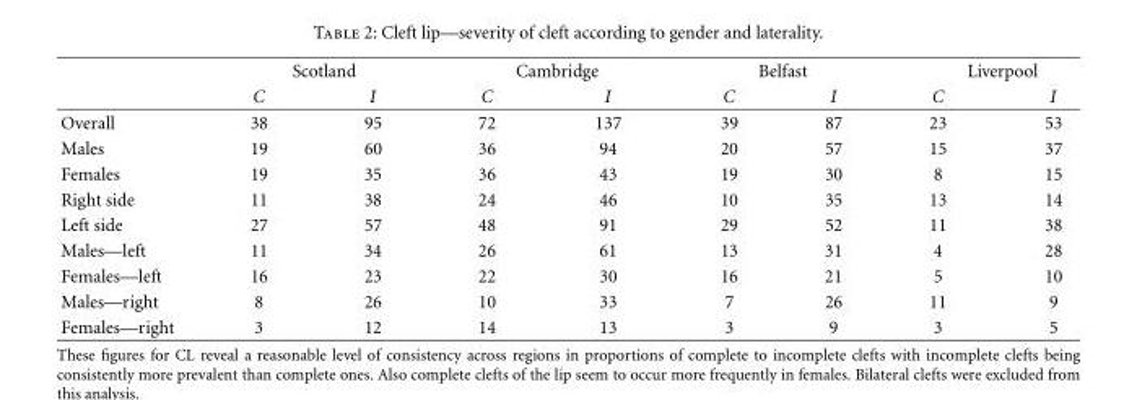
<table><thead><tr><td rowspan="2"></td><td colspan="2">Scotland</td><td colspan="2">Cambridge</td><td colspan="2">Belfast</td><td colspan="2">Liverpool</td></tr><tr><td>C</td><td>I</td><td>C</td><td>I</td><td>C</td><td>I</td><td>C</td><td>I</td></tr></thead><tbody><tr><td>Overall</td><td>38</td><td>95</td><td>72</td><td>137</td><td>39</td><td>87</td><td>23</td><td>53</td></tr><tr><td>Males</td><td>19</td><td>60</td><td>36</td><td>94</td><td>20</td><td>57</td><td>15</td><td>37</td></tr><tr><td>Females</td><td>19</td><td>35</td><td>36</td><td>43</td><td>19</td><td>30</td><td>8</td><td>15</td></tr><tr><td>Right side</td><td>11</td><td>38</td><td>24</td><td>46</td><td>10</td><td>35</td><td>13</td><td>14</td></tr><tr><td>Left side</td><td>27</td><td>57</td><td>48</td><td>91</td><td>29</td><td>52</td><td>11</td><td>38</td></tr><tr><td>Males—left</td><td>11</td><td>34</td><td>26</td><td>61</td><td>13</td><td>31</td><td>4</td><td>28</td></tr><tr><td>Females—left</td><td>16</td><td>23</td><td>22</td><td>30</td><td>16</td><td>21</td><td>5</td><td>10</td></tr><tr><td>Males—right</td><td>8</td><td>26</td><td>10</td><td>33</td><td>7</td><td>26</td><td>11</td><td>9</td></tr><tr><td>Females—right</td><td>3</td><td>12</td><td>14</td><td>13</td><td>3</td><td>9</td><td>3</td><td>5</td></tr></tbody></table>